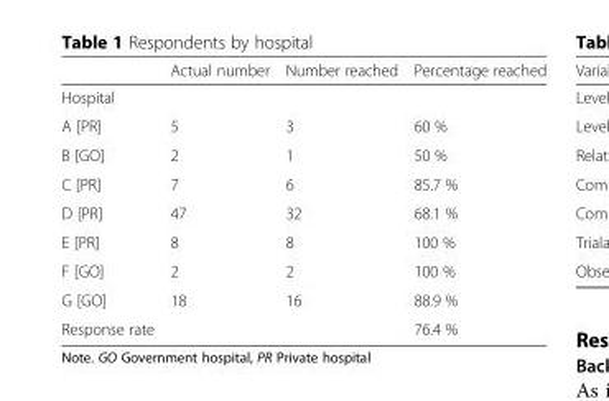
<table><thead><tr><td></td><td>Actual number</td><td>Number reached</td><td>Percentage reached</td></tr></thead><tbody><tr><td colspan="4">Hospital</td></tr><tr><td>A [PR]</td><td>5</td><td>3</td><td>60 %</td></tr><tr><td>B [GO]</td><td>2</td><td>1</td><td>50 %</td></tr><tr><td>C [PR]</td><td>7</td><td>6</td><td>85.7 %</td></tr><tr><td>D [PR]</td><td>47</td><td>32</td><td>68.1 %</td></tr><tr><td>E [PR]</td><td>8</td><td>8</td><td>100 %</td></tr><tr><td>F [GO]</td><td>2</td><td>2</td><td>100 %</td></tr><tr><td>G [GO]</td><td>18</td><td>16</td><td>88.9 %</td></tr><tr><td>Response rate</td><td></td><td></td><td>76.4 %</td></tr></tbody></table>